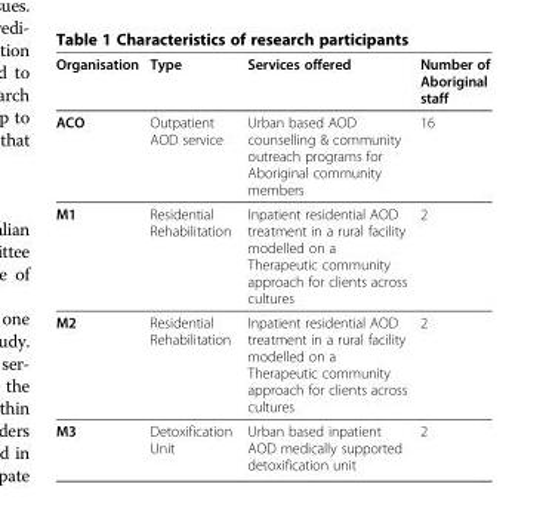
<table><thead><tr><td>Organisation</td><td>Type</td><td>Services offered</td><td>Number of Aboriginal staff</td></tr></thead><tbody><tr><td>ACO</td><td>Outpatient AOD service</td><td>Urban based AOD counselling &amp; community outreach programs for Aboriginal community members</td><td>16</td></tr><tr><td>M1</td><td>Residential Rehabilitation</td><td>Inpatient residential AOD treatment in a rural facility modelled on a Therapeutic community approach for clients across cultures</td><td>2</td></tr><tr><td>M2</td><td>Residential Rehabilitation</td><td>Inpatient residential AOD treatment in a rural facility modelled on a Therapeutic community approach for clients across cultures</td><td>2</td></tr><tr><td>M3</td><td>Detoxification Unit</td><td>Urban based inpatient AOD medically supported detoxification unit</td><td>2</td></tr></tbody></table>